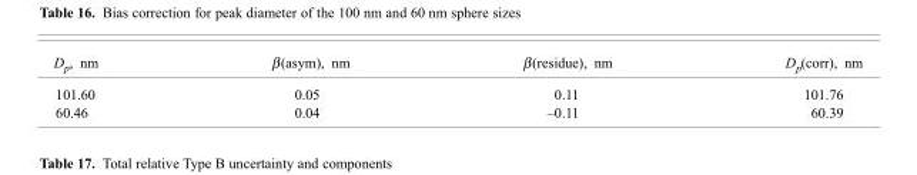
<table><thead><tr><td>D<sub>p</sub>, nm</td><td>β(asym), nm</td><td>β(residue), nm</td><td>D<sub>p</sub>(corr), nm</td></tr></thead><tbody><tr><td>101.60</td><td>0.05</td><td>0.11</td><td>101.76</td></tr><tr><td>60.46</td><td>0.04</td><td>–0.11</td><td>60.39</td></tr></tbody></table>